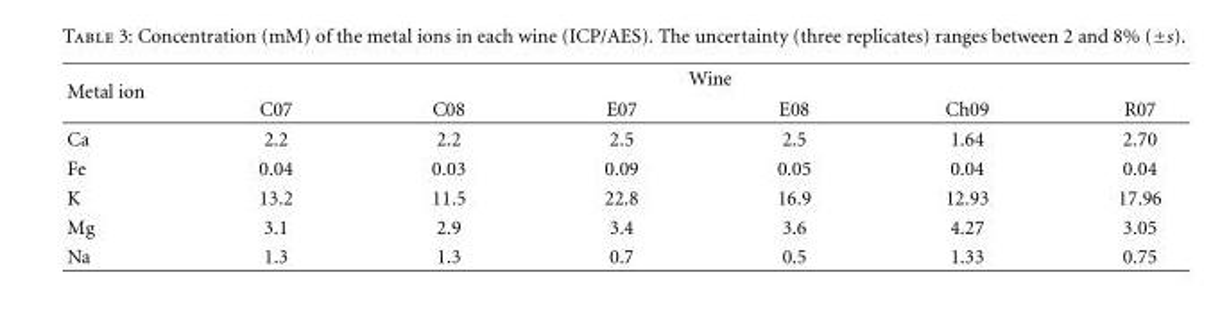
<table><thead><tr><td rowspan="2">Metal ion</td><td colspan="6">Wine</td></tr><tr><td>C07</td><td>C08</td><td>E07</td><td>E08</td><td>Ch09</td><td>R07</td></tr></thead><tbody><tr><td>Ca</td><td>2.2</td><td>2.2</td><td>2.5</td><td>2.5</td><td>1.64</td><td>2.70</td></tr><tr><td>Fe</td><td>0.04</td><td>0.03</td><td>0.09</td><td>0.05</td><td>0.04</td><td>0.04</td></tr><tr><td>K</td><td>13.2</td><td>11.5</td><td>22.8</td><td>16.9</td><td>12.93</td><td>17.96</td></tr><tr><td>Mg</td><td>3.1</td><td>2.9</td><td>3.4</td><td>3.6</td><td>4.27</td><td>3.05</td></tr><tr><td>Na</td><td>1.3</td><td>1.3</td><td>0.7</td><td>0.5</td><td>1.33</td><td>0.75</td></tr></tbody></table>